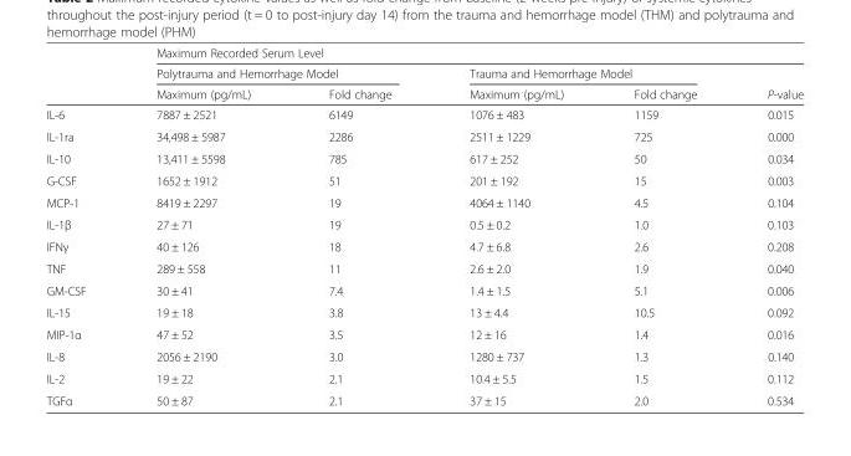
<table><thead><tr><td rowspan="3"></td><td colspan="5">Maximum Recorded Serum Level</td></tr><tr><td colspan="2">Polytrauma and Hemorrhage Model</td><td colspan="2">Trauma and Hemorrhage Model</td><td rowspan="2">P-value</td></tr><tr><td>Maximum (pg/mL)</td><td>Fold change</td><td>Maximum (pg/mL)</td><td>Fold change</td></tr></thead><tbody><tr><td>IL-6</td><td>7887 ± 2521</td><td>6149</td><td>1076 ± 483</td><td>1159</td><td>0.015</td></tr><tr><td>IL-1ra</td><td>34,498 ± 5987</td><td>2286</td><td>2511 ± 1229</td><td>725</td><td>0.000</td></tr><tr><td>IL-10</td><td>13,411 ± 5598</td><td>785</td><td>617 ± 252</td><td>50</td><td>0.034</td></tr><tr><td>G-CSF</td><td>1652 ± 1912</td><td>51</td><td>201 ± 192</td><td>15</td><td>0.003</td></tr><tr><td>MCP-1</td><td>8419 ± 2297</td><td>19</td><td>4064 ± 1140</td><td>4.5</td><td>0.104</td></tr><tr><td>IL-1β</td><td>27 ± 71</td><td>19</td><td>0.5 ± 0.2</td><td>1.0</td><td>0.103</td></tr><tr><td>IFNγ</td><td>40 ± 126</td><td>18</td><td>4.7 ± 6.8</td><td>2.6</td><td>0.208</td></tr><tr><td>TNF</td><td>289 ± 558</td><td>11</td><td>2.6 ± 2.0</td><td>1.9</td><td>0.040</td></tr><tr><td>GM-CSF</td><td>30 ± 41</td><td>7.4</td><td>1.4 ± 1.5</td><td>5.1</td><td>0.006</td></tr><tr><td>IL-15</td><td>19 ± 18</td><td>3.8</td><td>13 ± 4.4</td><td>10.5</td><td>0.092</td></tr><tr><td>MIP-1α</td><td>47 ± 52</td><td>3.5</td><td>12 ± 16</td><td>1.4</td><td>0.016</td></tr><tr><td>IL-8</td><td>2056 ± 2190</td><td>3.0</td><td>1280 ± 737</td><td>1.3</td><td>0.140</td></tr><tr><td>IL-2</td><td>19 ± 22</td><td>2.1</td><td>10.4 ± 5.5</td><td>1.5</td><td>0.112</td></tr><tr><td>TGFα</td><td>50 ± 87</td><td>2.1</td><td>37 ± 15</td><td>2.0</td><td>0.534</td></tr></tbody></table>